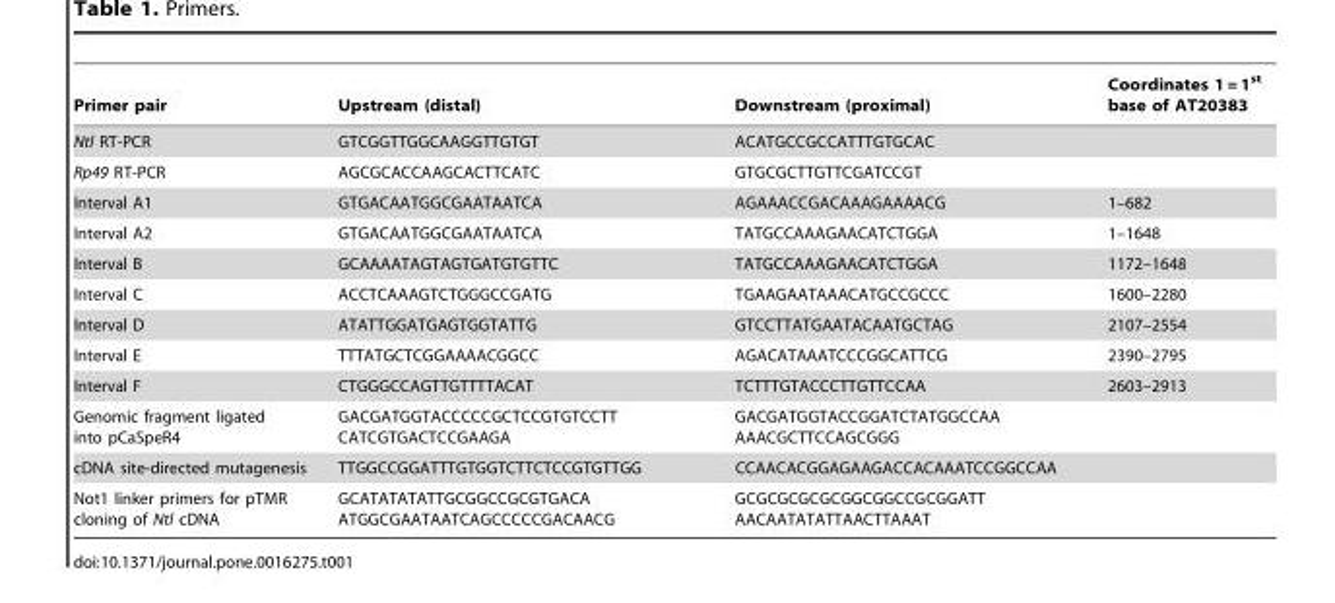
<table><thead><tr><td>Primer pair</td><td>Upstream (distal)</td><td>Downstream (proximal)</td><td>Coordinates 1 = 1<sup>st</sup> base of AT20383</td></tr></thead><tbody><tr><td>Ntl RT-PCR</td><td>GTCGGTTGGCAAGGTTGTGT</td><td>ACATGCCGCCATTTGTGCAC</td><td></td></tr><tr><td>Rp49 RT-PCR</td><td>AGCGCACCAAGCACTTCATC</td><td>GTGCGCTTGTTCGATCCGT</td><td></td></tr><tr><td>Interval A1</td><td>GTGACAATGGCGAATAATCA</td><td>AGAAACCGACAAAGAAAACG</td><td>1–682</td></tr><tr><td>Interval A2</td><td>GTGACAATGGCGAATAATCA</td><td>TATGCCAAAGAACATCTGGA</td><td>1–1648</td></tr><tr><td>Interval B</td><td>GCAAAATAGTAGTGATGTGTTC</td><td>TATGCCAAAGAACATCTGGA</td><td>1172–1648</td></tr><tr><td>Interval C</td><td>ACCTCAAAGTCTGGGCCGATG</td><td>TGAAGAATAAACATGCCGCCC</td><td>1600–2280</td></tr><tr><td>Interval D</td><td>ATATTGGATGAGTGGTATTG</td><td>GTCCTTATGAATACAATGCTAG</td><td>2107–2554</td></tr><tr><td>Interval E</td><td>TTTATGCTCGGAAAACGGCC</td><td>AGACATAAATCCCGGCATTCG</td><td>2390–2795</td></tr><tr><td>Interval F</td><td>CTGGGCCAGTTGTTTTACAT</td><td>TCTTTGTACCCTTGTTCCAA</td><td>2603–2913</td></tr><tr><td>Genomic fragment ligated into pCaSpeR4</td><td>GACGATGGTACCCCCGCTCCGTGTCCTT CATCGTGACTCCGAAGA</td><td>GACGATGGTACCGGATCTATGGCCAA AAACGCTTCCAGCGGG</td><td></td></tr><tr><td>cDNA site-directed mutagenesis</td><td>TTGGCCGGATTTGTGGTCTTCTCCGTGTTGG</td><td>CCAACACGGAGAAGACCACAAATCCGGCCAA</td><td></td></tr><tr><td>Not1 linker primers for pTMR cloning of Ntl cDNA</td><td>GCATATATATTGCGGCCGCGTGACA ATGGCGAATAATCAGCCCCCGACAACG</td><td>GCGCGCGCGCGGCGGCCGCGGATT AACAATATATTAACTTAAAT</td><td></td></tr></tbody></table>